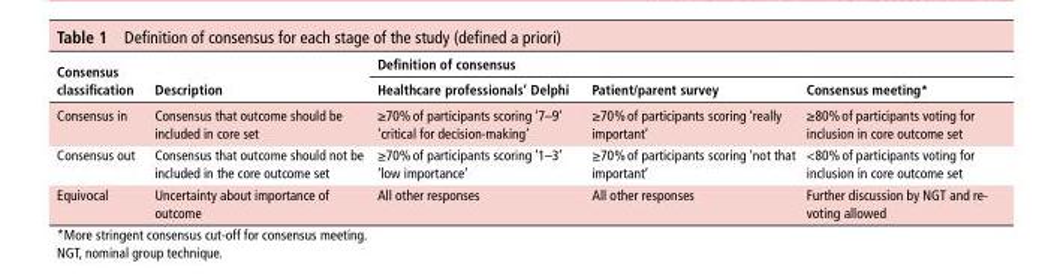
<table><thead><tr><td rowspan="2">Consensus classification</td><td rowspan="2">description</td><td colspan="3">definition of consensus</td></tr><tr><td>healthcare professionals’ delphi</td><td>Patient/parent survey</td><td>Consensus meeting*</td></tr></thead><tbody><tr><td>Consensus in</td><td>Consensus that outcome should be included in core set</td><td>≥70% of participants scoring ‘7–9’ ‘critical for decision-making’</td><td>≥70% of participants scoring ‘really important’</td><td>≥80% of participants voting for inclusion in core outcome set</td></tr><tr><td>Consensus out</td><td>Consensus that outcome should not be included in the core outcome set</td><td>≥70% of participants scoring ‘1–3’ ‘low importance’</td><td>≥70% of participants scoring ‘not that important’</td><td>&lt;80% of participants voting for inclusion in core outcome set</td></tr><tr><td>Equivocal</td><td>Uncertainty about importance of outcome</td><td>All other responses</td><td>All other responses</td><td>Further discussion by NGT and re- voting allowed</td></tr></tbody></table>